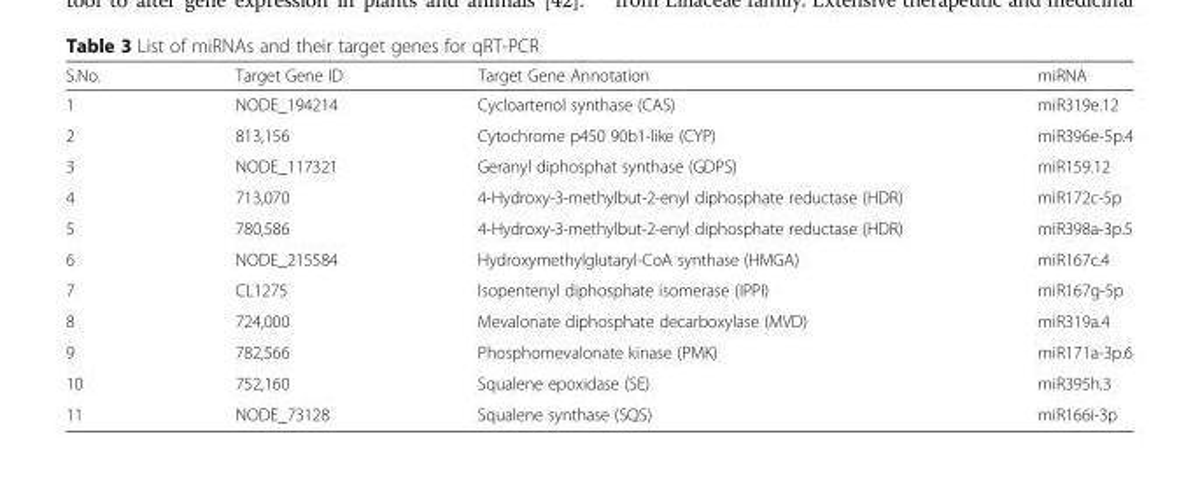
<table><thead><tr><td>S.No.</td><td>Target Gene ID</td><td>Target Gene Annotation</td><td>miRNA</td></tr></thead><tbody><tr><td>1</td><td>NODE_194214</td><td>Cycloartenol synthase (CAS)</td><td>miR319e.12</td></tr><tr><td>2</td><td>813,156</td><td>Cytochrome p450 90b1-like (CYP)</td><td>miR396e-5p.4</td></tr><tr><td>3</td><td>NODE_117321</td><td>Geranyl diphosphat synthase (GDPS)</td><td>miR159.12</td></tr><tr><td>4</td><td>713,070</td><td>4-Hydroxy-3-methylbut-2-enyl diphosphate reductase (HDR)</td><td>miR172c-5p</td></tr><tr><td>5</td><td>780,586</td><td>4-Hydroxy-3-methylbut-2-enyl diphosphate reductase (HDR)</td><td>miR398a-3p.5</td></tr><tr><td>6</td><td>NODE_215584</td><td>Hydroxymethylglutaryl-CoA synthase (HMGA)</td><td>miR167c.4</td></tr><tr><td>7</td><td>CL1275</td><td>Isopentenyl diphosphate isomerase (IPPI)</td><td>miR167g-5p</td></tr><tr><td>8</td><td>724,000</td><td>Mevalonate diphosphate decarboxylase (MVD)</td><td>miR319a.4</td></tr><tr><td>9</td><td>782,566</td><td>Phosphomevalonate kinase (PMK)</td><td>miR171a-3p.6</td></tr><tr><td>10</td><td>752,160</td><td>Squalene epoxidase (SE)</td><td>miR395h.3</td></tr><tr><td>11</td><td>NODE_73128</td><td>Squalene synthase (SQS)</td><td>miR166i-3p</td></tr></tbody></table>